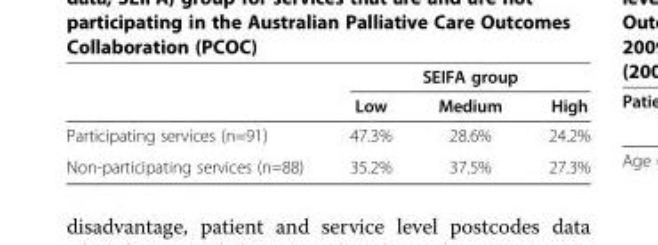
<table><thead><tr><td rowspan="2"></td><td colspan="3">SEIFA group</td></tr><tr><td>Low</td><td>Medium</td><td>High</td></tr></thead><tbody><tr><td>Participating services (n=91)</td><td>47.3%</td><td>28.6%</td><td>24.2%</td></tr><tr><td>Non-participating services (n=88)</td><td>35.2%</td><td>37.5%</td><td>27.3%</td></tr></tbody></table>